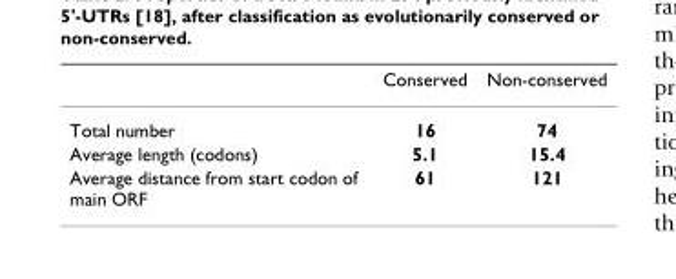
<table><thead><tr><td></td><td>Conserved</td><td>Non-conserved</td></tr></thead><tbody><tr><td>Total number</td><td>16</td><td>74</td></tr><tr><td>Average length (codons)</td><td>5.1</td><td>15.4</td></tr><tr><td>Average distance from start codon of main ORF</td><td>61</td><td>121</td></tr></tbody></table>